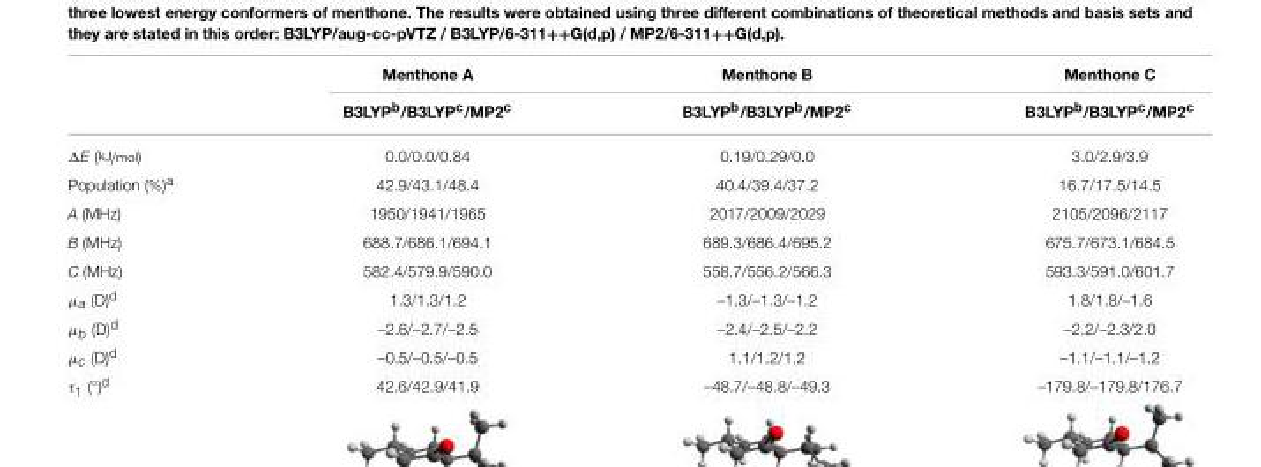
<table><thead><tr><td rowspan="2"></td><td rowspan="2">Menthone A B3LYPb/B3LYPc/MP2c</td><td rowspan="2">Menthone B B3LYP<sup>b</sup>/B3LYP<sup>b</sup>/MP2<sup>c</sup></td><td rowspan="2">Menthone C B3LYPb/B3LYPc/MP2c</td></tr><tr></tr></thead><tbody><tr><td>ΔE (kJ/mol)</td><td>0.0/0.0/0.84</td><td>0.19/0.29/0.0</td><td>3.0/2.9/3.9</td></tr><tr><td>Population (%)<sup>a</sup></td><td>42.9/43.1/48.4</td><td>40.4/39.4/37.2</td><td>16.7/17.5/14.5</td></tr><tr><td>A (MHz)</td><td>1950/1941/1965</td><td>2017/2009/2029</td><td>2105/2096/2117</td></tr><tr><td>B (MHz)</td><td>688.7/686.1/694.1</td><td>689.3/686.4/695.2</td><td>675.7/673.1/684.5</td></tr><tr><td>C (MHz)</td><td>582.4/579.9/590.0</td><td>558.7/556.2/566.3</td><td>593.3/591.0/601.7</td></tr><tr><td>µ<sub>a</sub> (D)<sup>d</sup></td><td>1.3/1.3/1.2</td><td>–1.3/–1.3/–1.2</td><td>1.8/1.8/–1.6</td></tr><tr><td>µ<sub>b</sub> (D)<sup>d</sup></td><td>–2.6/–2.7/–2.5</td><td>–2.4/–2.5/–2.2</td><td>–2.2/–2.3/2.0</td></tr><tr><td>µ<sub>c</sub> (D)<sup>d</sup></td><td>–0.5/–0.5/–0.5</td><td>1.1/1.2/1.2</td><td>–1.1/–1.1/–1.2</td></tr><tr><td>τ<sub>1</sub> (°)<sup>d</sup></td><td>42.6/42.9/41.9</td><td>–48.7/–48.8/–49.3</td><td>–179.8/–179.8/176.7</td></tr></tbody></table>